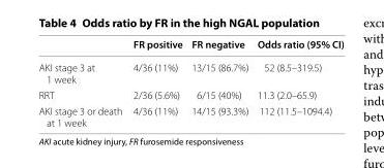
<table><thead><tr><td></td><td>FR positive</td><td>FR negative</td><td>Odds ratio (95% CI)</td></tr></thead><tbody><tr><td>AKI stage 3 at 1 week</td><td>4/36 (11%)</td><td>13/15 (86.7%)</td><td>52 (8.5–319.5)</td></tr><tr><td>RRT</td><td>2/36 (5.6%)</td><td>6/15 (40%)</td><td>11.3 (2.0–65.9)</td></tr><tr><td>AKI stage 3 or death at 1 week</td><td>4/36 (11%)</td><td>14/15 (93.3%)</td><td>112 (11.5–1094.4)</td></tr></tbody></table>